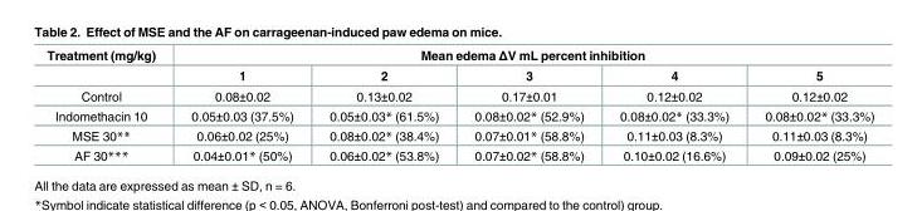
<table><thead><tr><td rowspan="2">Treatment (mg/kg)</td><td colspan="5">Mean edema ΔV mL percent inhibition</td></tr><tr><td>1</td><td>2</td><td>3</td><td>4</td><td>5</td></tr></thead><tbody><tr><td>Control</td><td>0.08±0.02</td><td>0.13±0.02</td><td>0.17±0.01</td><td>0.12±0.02</td><td>0.12±0.02</td></tr><tr><td>Indomethacin 10</td><td>0.05±0.03 (37.5%)</td><td>0.05±0.03* (61.5%)</td><td>0.08±0.02* (52.9%)</td><td>0.08±0.02* (33.3%)</td><td>0.08±0.02* (33.3%)</td></tr><tr><td>MSE 30**</td><td>0.06±0.02 (25%)</td><td>0.08±0.02* (38.4%)</td><td>0.07±0.01* (58.8%)</td><td>0.11±0.03 (8.3%)</td><td>0.11±0.03 (8.3%)</td></tr><tr><td>AF 30***</td><td>0.04±0.01* (50%)</td><td>0.06±0.02* (53.8%)</td><td>0.07±0.02* (58.8%)</td><td>0.10±0.02 (16.6%)</td><td>0.09±0.02 (25%)</td></tr></tbody></table>